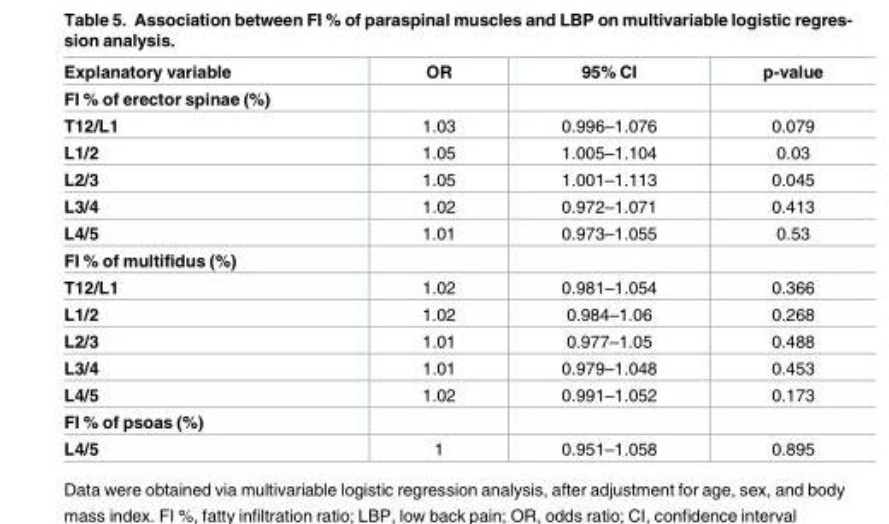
<table><thead><tr><td>Explanatory variable</td><td>OR</td><td>95% CI</td><td>p-value</td></tr></thead><tbody><tr><td colspan="4">FI % of erector spinae (%)</td></tr><tr><td>T12/L1</td><td>1.03</td><td>0.996–1.076</td><td>0.079</td></tr><tr><td>L1/2</td><td>1.05</td><td>1.005–1.104</td><td>0.03</td></tr><tr><td>L2/3</td><td>1.05</td><td>1.001–1.113</td><td>0.045</td></tr><tr><td>L3/4</td><td>1.02</td><td>0.972–1.071</td><td>0.413</td></tr><tr><td>L4/5</td><td>1.01</td><td>0.973–1.055</td><td>0.53</td></tr><tr><td colspan="4">FI % of multifidus (%)</td></tr><tr><td>T12/L1</td><td>1.02</td><td>0.981–1.054</td><td>0.366</td></tr><tr><td>L1/2</td><td>1.02</td><td>0.984–1.06</td><td>0.268</td></tr><tr><td>L2/3</td><td>1.01</td><td>0.977–1.05</td><td>0.488</td></tr><tr><td>L3/4</td><td>1.01</td><td>0.979–1.048</td><td>0.453</td></tr><tr><td>L4/5</td><td>1.02</td><td>0.991–1.052</td><td>0.173</td></tr><tr><td colspan="4">FI % of psoas (%)</td></tr><tr><td>L4/5</td><td>1</td><td>0.951–1.058</td><td>0.895</td></tr></tbody></table>